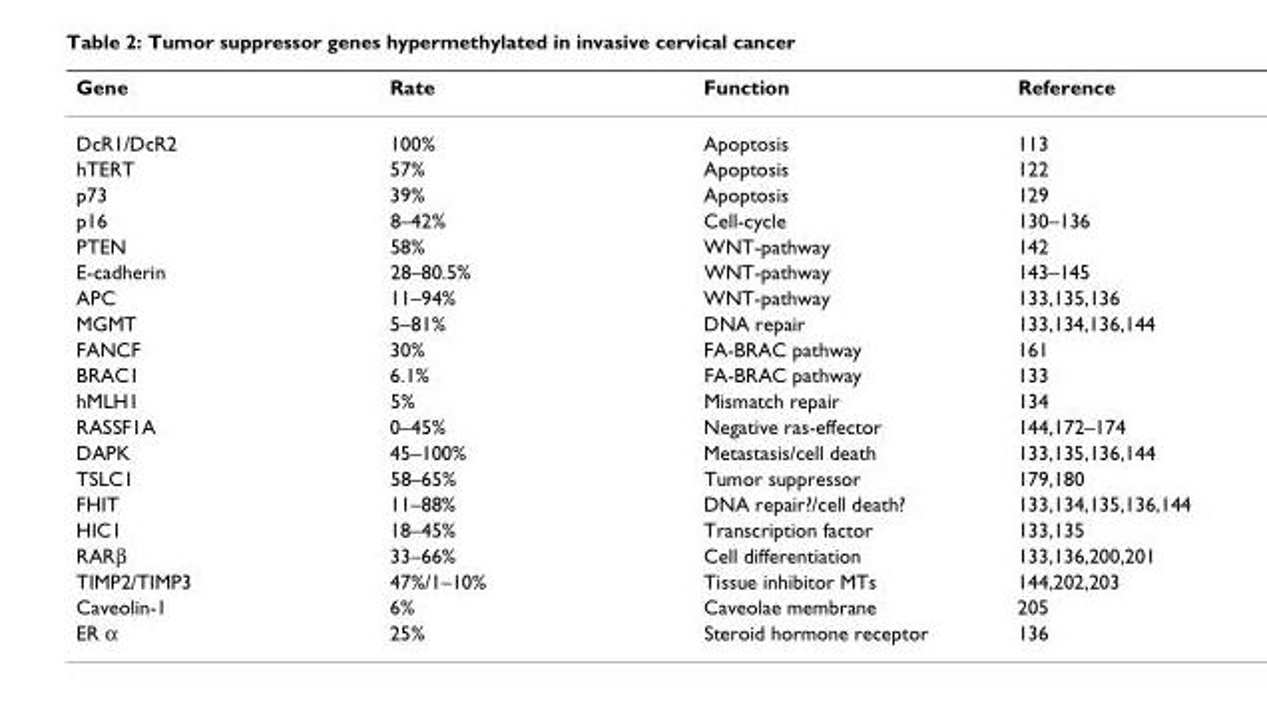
<table><thead><tr><td>Gene</td><td>Rate</td><td>Function</td><td>Reference</td></tr></thead><tbody><tr><td>DcR1/DcR2</td><td>100%</td><td>Apoptosis</td><td>113</td></tr><tr><td>hTERT</td><td>57%</td><td>Apoptosis</td><td>122</td></tr><tr><td>p73</td><td>39%</td><td>Apoptosis</td><td>129</td></tr><tr><td>p16</td><td>8–42%</td><td>Cell-cycle</td><td>130–136</td></tr><tr><td>PTEN</td><td>58%</td><td>WNT-pathway</td><td>142</td></tr><tr><td>E-cadherin</td><td>28–80.5%</td><td>WNT-pathway</td><td>143–145</td></tr><tr><td>APC</td><td>11–94%</td><td>WNT-pathway</td><td>133,135,136</td></tr><tr><td>MGMT</td><td>5–81%</td><td>DNA repair</td><td>133,134,136,144</td></tr><tr><td>FANCF</td><td>30%</td><td>FA-BRAC pathway</td><td>161</td></tr><tr><td>BRAC1</td><td>6.1%</td><td>FA-BRAC pathway</td><td>133</td></tr><tr><td>hMLH1</td><td>5%</td><td>Mismatch repair</td><td>134</td></tr><tr><td>RASSF1A</td><td>0–45%</td><td>Negative ras-effector</td><td>144,172–174</td></tr><tr><td>DAPK</td><td>45–100%</td><td>Metastasis/cell death</td><td>133,135,136,144</td></tr><tr><td>TSLC1</td><td>58–65%</td><td>Tumor suppressor</td><td>179,180</td></tr><tr><td>FHIT</td><td>11–88%</td><td>DNA repair?/cell death?</td><td>133,134,135,136,144</td></tr><tr><td>HIC1</td><td>18–45%</td><td>Transcription factor</td><td>133,135</td></tr><tr><td>RARβ</td><td>33–66%</td><td>Cell differentiation</td><td>133,136,200,201</td></tr><tr><td>TIMP2/TIMP3</td><td>47%/1–10%</td><td>Tissue inhibitor MTs</td><td>144,202,203</td></tr><tr><td>Caveolin-1</td><td>6%</td><td>Caveolae membrane</td><td>205</td></tr><tr><td>ER α</td><td>25%</td><td>Steroid hormone receptor</td><td>136</td></tr></tbody></table>